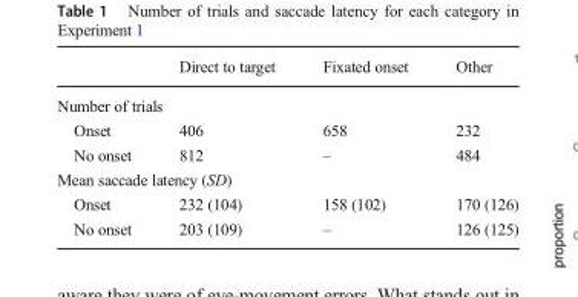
<table><thead><tr><td></td><td>Direct to target</td><td>Fixated onset</td><td>Other</td></tr></thead><tbody><tr><td colspan="4">Number of trials</td></tr><tr><td>Onset</td><td>406</td><td>658</td><td>232</td></tr><tr><td>No onset</td><td>812</td><td>–</td><td>484</td></tr><tr><td colspan="4">Mean saccade latency (SD)</td></tr><tr><td>Onset</td><td>232 (104)</td><td>158 (102)</td><td>170 (126)</td></tr><tr><td>No onset</td><td>203 (109)</td><td>–</td><td>126 (125)</td></tr></tbody></table>